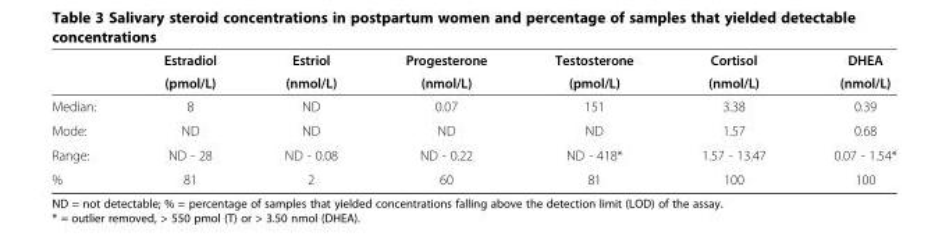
<table><thead><tr><td rowspan="2"></td><td rowspan="2">Estradiol (pmol/L)</td><td rowspan="2">Estriol (nmol/L)</td><td rowspan="2">Progesterone (nmol/L)</td><td rowspan="2">Testosterone (pmol/L)</td><td rowspan="2">Cortisol (nmol/L)</td><td rowspan="2">DHEA (nmol/L)</td></tr><tr></tr></thead><tbody><tr><td>Median:</td><td>8</td><td>ND</td><td>0.07</td><td>151</td><td>3.38</td><td>0.39</td></tr><tr><td>Mode:</td><td>ND</td><td>ND</td><td>ND</td><td>ND</td><td>1.57</td><td>0.68</td></tr><tr><td>Range:</td><td>ND - 28</td><td>ND - 0.08</td><td>ND - 0.22</td><td>ND - 418*</td><td>1.57 - 13.47</td><td>0.07 - 1.54*</td></tr><tr><td>%</td><td>81</td><td>2</td><td>60</td><td>81</td><td>100</td><td>100</td></tr></tbody></table>